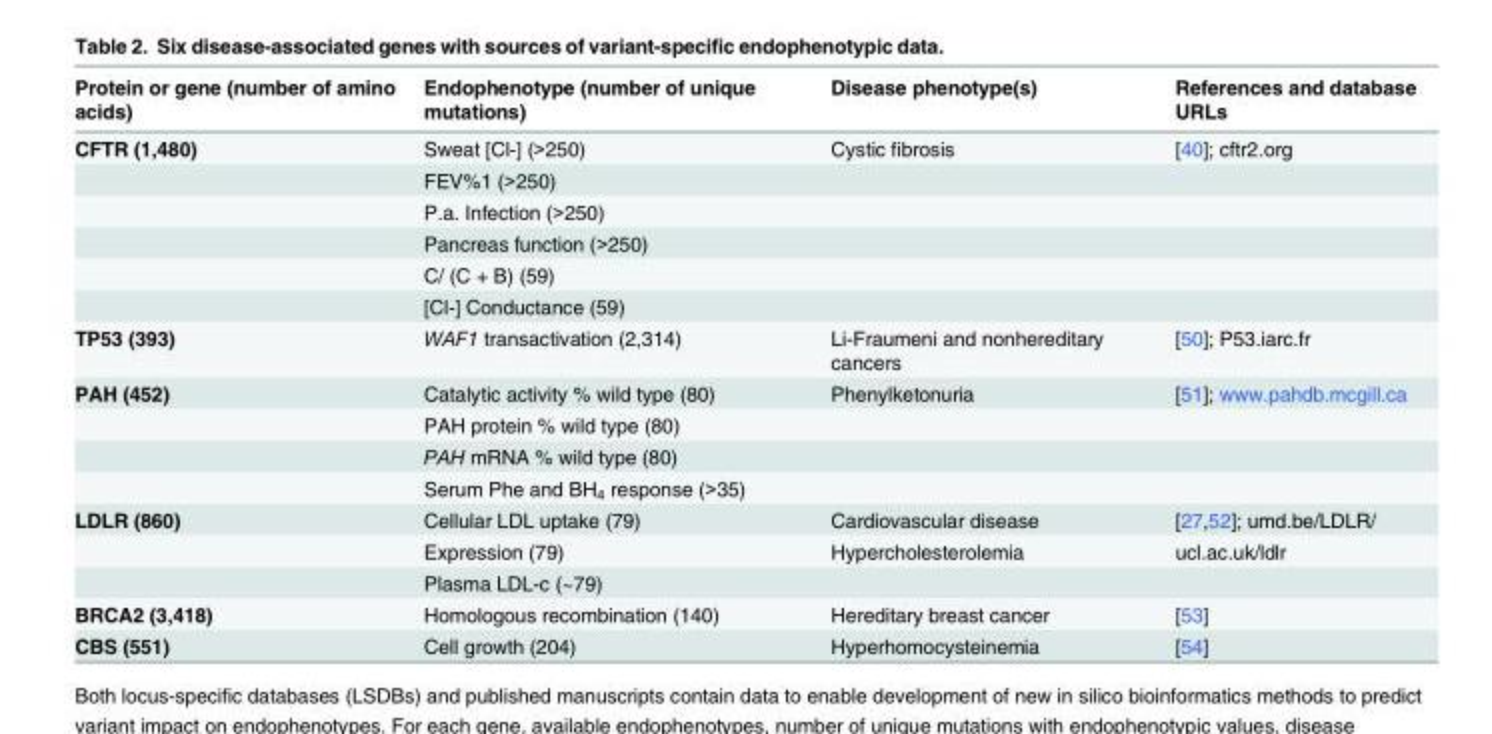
<table><thead><tr><td>Protein or gene (number of amino acids)</td><td>Endophenotype (number of unique mutations)</td><td>Disease phenotype(s)</td><td>References and database URLs</td></tr></thead><tbody><tr><td rowspan="6">CFTR (1,480)</td><td>Sweat [Cl-] (&gt;250)</td><td>Cystic fibrosis</td><td>[40]; cftr2.org</td></tr><tr><td>FEV%1 (&gt;250)</td><td></td><td></td></tr><tr><td>P.a. Infection (&gt;250)</td><td></td><td></td></tr><tr><td>Pancreas function (&gt;250)</td><td></td><td></td></tr><tr><td>C/ (C + B) (59)</td><td></td><td></td></tr><tr><td>[Cl-] Conductance (59)</td><td></td><td></td></tr><tr><td>TP53 (393)</td><td>WAF1 transactivation (2,314)</td><td>Li-Fraumeni and nonhereditary cancers</td><td>[50]; P53.iarc.fr</td></tr><tr><td rowspan="4">PAH (452)</td><td>Catalytic activity % wild type (80)</td><td>Phenylketonuria</td><td>[51]; www.pahdb.mcgill.ca</td></tr><tr><td>PAH protein % wild type (80)</td><td></td><td></td></tr><tr><td>PAH mRNA % wild type (80)</td><td></td><td></td></tr><tr><td>Serum Phe and BH<sub>4</sub> response (&gt;35)</td><td></td><td></td></tr><tr><td rowspan="3">LDLR (860)</td><td>Cellular LDL uptake (79)</td><td>Cardiovascular disease</td><td>[27,52]; umd.be/LDLR/</td></tr><tr><td>Expression (79)</td><td>Hypercholesterolemia</td><td>ucl.ac.uk/ldlr</td></tr><tr><td>Plasma LDL-c (~79)</td><td></td><td></td></tr><tr><td>BRCA2 (3,418)</td><td>Homologous recombination (140)</td><td>Hereditary breast cancer</td><td>[53]</td></tr><tr><td>CBS (551)</td><td>Cell growth (204)</td><td>Hyperhomocysteinemia</td><td>[54]</td></tr></tbody></table>